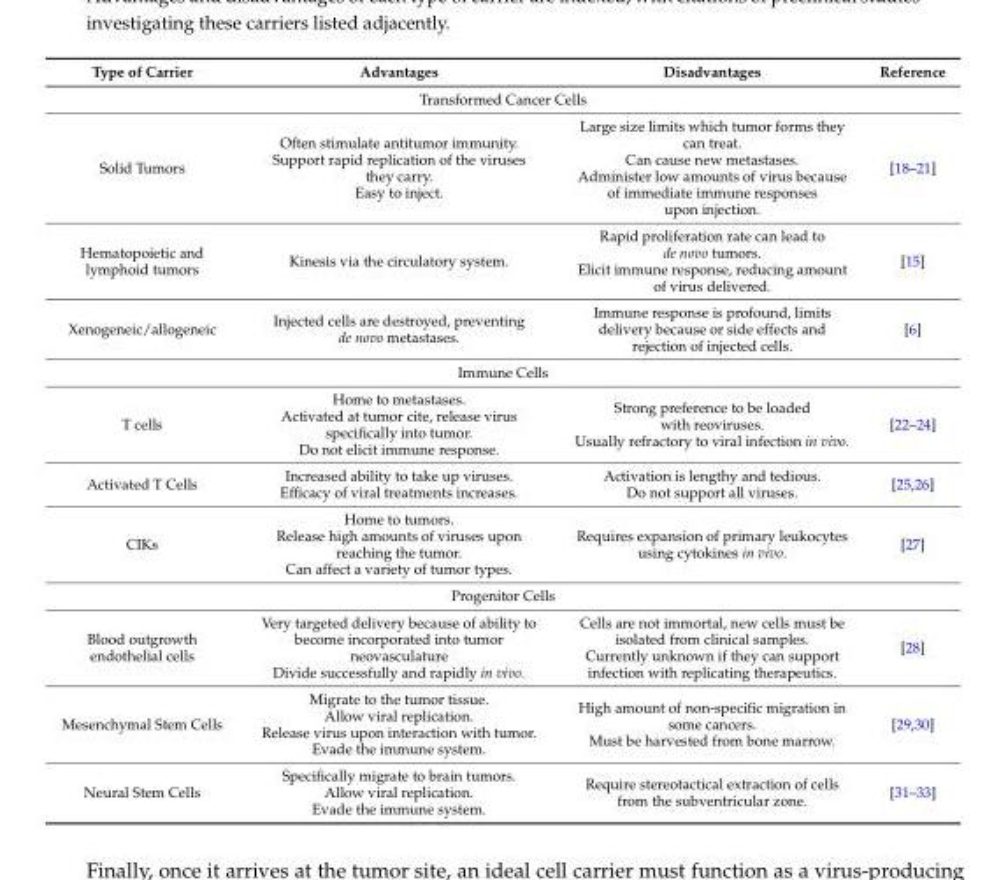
<table><thead><tr><td>Type of Carrier</td><td>Advantages</td><td>Disadvantages</td><td>Reference</td></tr></thead><tbody><tr><td colspan="4">Transformed Cancer Cells</td></tr><tr><td>Solid Tumors</td><td>Often stimulate antitumor immunity. Support rapid replication of the viruses they carry. Easy to inject.</td><td>Large size limits which tumor forms they can treat. Can cause new metastases. Administer low amounts of virus because of immediate immune responses upon injection.</td><td>[18–21]</td></tr><tr><td>Hematopoietic and lymphoid tumors</td><td>Kinesis via the circulatory system.</td><td>Rapid proliferation rate can lead to de novo tumors. Elicit immune response, reducing amount of virus delivered.</td><td>[15]</td></tr><tr><td>Xenogeneic/allogeneic</td><td>Injected cells are destroyed, preventing de novo metastases.</td><td>Immune response is profound, limits delivery because or side effects and rejection of injected cells.</td><td>[6]</td></tr><tr><td colspan="4">Immune Cells</td></tr><tr><td>T cells</td><td>Home to metastases. Activated at tumor cite, release virus specifically into tumor. Do not elicit immune response.</td><td>Strong preference to be loaded with reoviruses. Usually refractory to viral infection in vivo.</td><td>[22–24]</td></tr><tr><td>Activated T Cells</td><td>Increased ability to take up viruses. Efficacy of viral treatments increases.</td><td>Activation is lengthy and tedious. Do not support all viruses.</td><td>[25,26]</td></tr><tr><td>CIKs</td><td>Home to tumors. Release high amounts of viruses upon reaching the tumor. Can affect a variety of tumor types.</td><td>Requires expansion of primary leukocytes using cytokines in vivo.</td><td>[27]</td></tr><tr><td colspan="4">Progenitor Cells</td></tr><tr><td>Blood outgrowth endothelial cells</td><td>Very targeted delivery because of ability to become incorporated into tumor neovasculature Divide successfully and rapidly in vivo.</td><td>Cells are not immortal, new cells must be isolated from clinical samples. Currently unknown if they can support infection with replicating therapeutics.</td><td>[28]</td></tr><tr><td>Mesenchymal Stem Cells</td><td>Migrate to the tumor tissue. Allow viral replication. Release virus upon interaction with tumor. Evade the immune system.</td><td>High amount of non-specific migration in some cancers. Must be harvested from bone marrow.</td><td>[29,30]</td></tr><tr><td>Neural Stem Cells</td><td>Specifically migrate to brain tumors. Allow viral replication. Evade the immune system.</td><td>Require stereotactical extraction of cells from the subventricular zone.</td><td>[31–33]</td></tr></tbody></table>